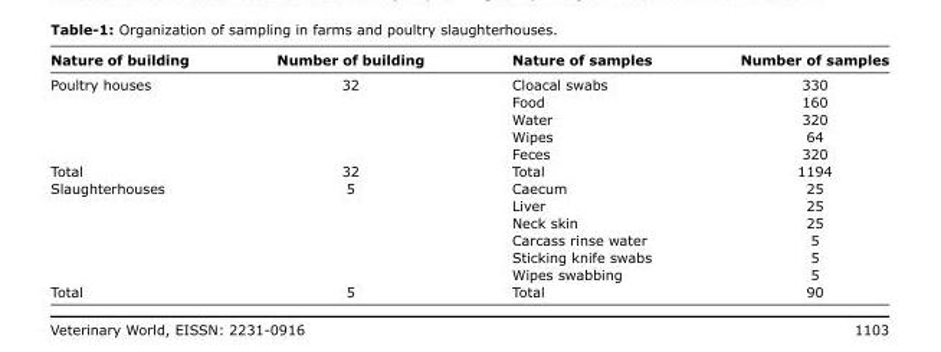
<table><thead><tr><td>Nature of building</td><td>Number of building</td><td>Nature of samples</td><td>Number of samples</td></tr></thead><tbody><tr><td rowspan="5">Poultry houses</td><td rowspan="5">32</td><td>Cloacal swabs</td><td>330</td></tr><tr><td>Food</td><td>160</td></tr><tr><td>Water</td><td>320</td></tr><tr><td>Wipes</td><td>64</td></tr><tr><td>Feces</td><td>320</td></tr><tr><td>Total</td><td>32</td><td>Total</td><td>1194</td></tr><tr><td rowspan="6">Slaughterhouses</td><td rowspan="6">5</td><td>Caecum</td><td>25</td></tr><tr><td>Liver</td><td>25</td></tr><tr><td>Neck skin</td><td>25</td></tr><tr><td>Carcass rinse water</td><td>5</td></tr><tr><td>Sticking knife swabs</td><td>5</td></tr><tr><td>Wipes swabbing</td><td>5</td></tr><tr><td>Total</td><td>5</td><td>Total</td><td>90</td></tr></tbody></table>